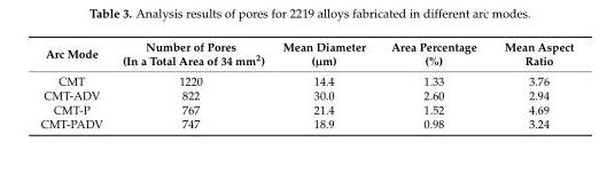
<table><thead><tr><td>Arc Mode</td><td>Number of Pores (In a Total Area of 34 mm<sup>2</sup>)</td><td>Mean Diameter (µm)</td><td>Area Percentage (%)</td><td>Mean Aspect Ratio</td></tr></thead><tbody><tr><td>CMT</td><td>1220</td><td>14.4</td><td>1.33</td><td>3.76</td></tr><tr><td>CMT-ADV</td><td>822</td><td>30.0</td><td>2.60</td><td>2.94</td></tr><tr><td>CMT-P</td><td>767</td><td>21.4</td><td>1.52</td><td>4.69</td></tr><tr><td>CMT-PADV</td><td>747</td><td>18.9</td><td>0.98</td><td>3.24</td></tr></tbody></table>